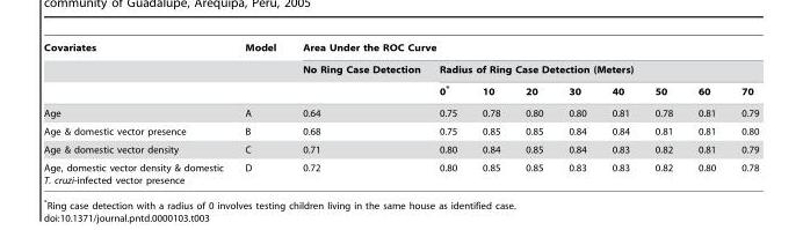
<table><thead><tr><td rowspan="3">Covariates</td><td rowspan="3">Model</td><td colspan="9">Area Under the ROC Curve</td></tr><tr><td rowspan="2">No Ring Case Detection</td><td colspan="8">Radius of Ring Case Detection (Meters)</td></tr><tr><td>0*</td><td>10</td><td>20</td><td>30</td><td>40</td><td>50</td><td>60</td><td>70</td></tr></thead><tbody><tr><td>Age</td><td>A</td><td>0.64</td><td>0.75</td><td>0.78</td><td>0.80</td><td>0.80</td><td>0.81</td><td>0.78</td><td>0.81</td><td>0.79</td></tr><tr><td>Age &amp; domestic vector presence</td><td>B</td><td>0.68</td><td>0.75</td><td>0.85</td><td>0.85</td><td>0.84</td><td>0.84</td><td>0.81</td><td>0.81</td><td>0.80</td></tr><tr><td>Age &amp; domestic vector density</td><td>C</td><td>0.71</td><td>0.80</td><td>0.84</td><td>0.85</td><td>0.84</td><td>0.83</td><td>0.82</td><td>0.81</td><td>0.79</td></tr><tr><td>Age, domestic vector density &amp; domestic T. cruzi-infected vector presence</td><td>D</td><td>0.72</td><td>0.80</td><td>0.85</td><td>0.85</td><td>0.83</td><td>0.83</td><td>0.82</td><td>0.80</td><td>0.78</td></tr></tbody></table>